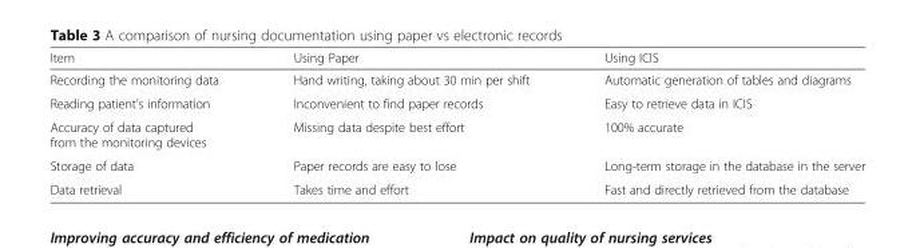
<table><thead><tr><td>Item</td><td>Using Paper</td><td>Using ICIS</td></tr></thead><tbody><tr><td>Recording the monitoring data</td><td>Hand writing, taking about 30 min per shift</td><td>Automatic generation of tables and diagrams</td></tr><tr><td>Reading patient’s information</td><td>Inconvenient to find paper records</td><td>Easy to retrieve data in ICIS</td></tr><tr><td>Accuracy of data captured from the monitoring devices</td><td>Missing data despite best effort</td><td>100% accurate</td></tr><tr><td>Storage of data</td><td>Paper records are easy to lose</td><td>Long-term storage in the database in the server</td></tr><tr><td>Data retrieval</td><td>Takes time and effort</td><td>Fast and directly retrieved from the database</td></tr></tbody></table>